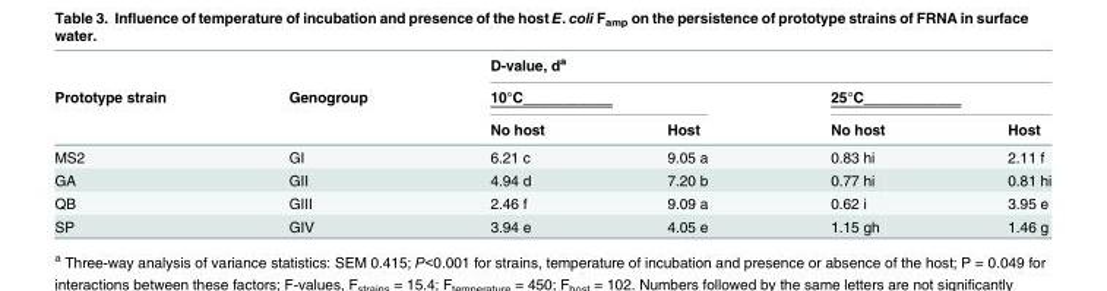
<table><thead><tr><td rowspan="3">Prototype strain</td><td rowspan="3">Genogroup</td><td colspan="4">D-value, d<sup>a</sup></td></tr><tr><td colspan="2">10°C___________</td><td colspan="2">25°C____________</td></tr><tr><td>No host</td><td>Host</td><td>No host</td><td>Host</td></tr></thead><tbody><tr><td>MS2</td><td>GI</td><td>6.21 c</td><td>9.05 a</td><td>0.83 hi</td><td>2.11 f</td></tr><tr><td>GA</td><td>GII</td><td>4.94 d</td><td>7.20 b</td><td>0.77 hi</td><td>0.81 hi</td></tr><tr><td>QB</td><td>GIII</td><td>2.46 f</td><td>9.09 a</td><td>0.62 i</td><td>3.95 e</td></tr><tr><td>SP</td><td>GIV</td><td>3.94 e</td><td>4.05 e</td><td>1.15 gh</td><td>1.46 g</td></tr></tbody></table>